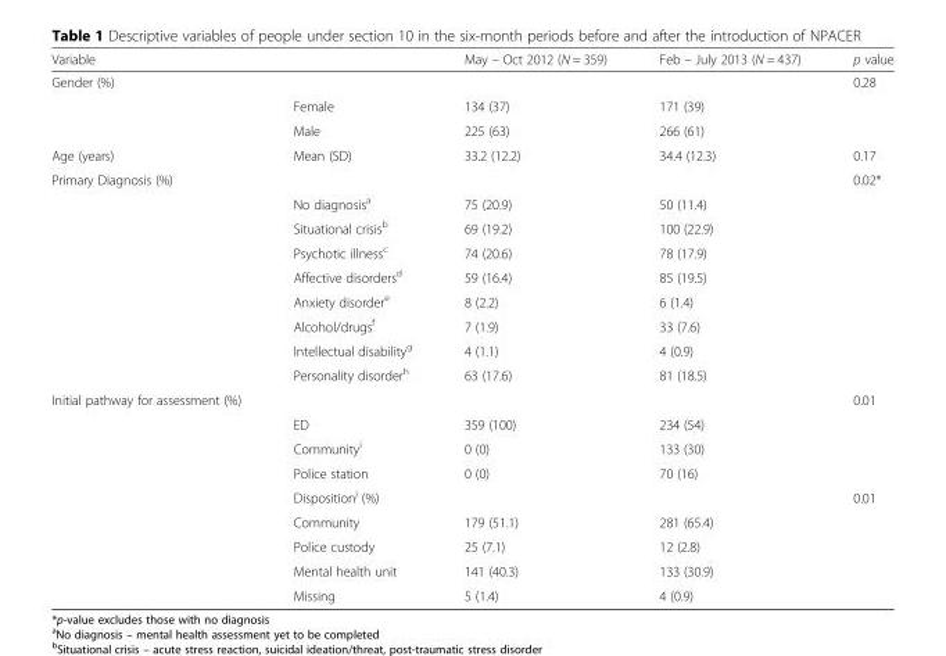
<table><thead><tr><td colspan="2">Variable</td><td rowspan="2">May – Oct 2012 (N = 359)</td><td rowspan="2">Feb – July 2013 (N = 437)</td><td rowspan="2">p value 0.28</td></tr><tr><td>Gender (%)</td><td></td></tr></thead><tbody><tr><td></td><td>Female</td><td>134 (37)</td><td>171 (39)</td><td></td></tr><tr><td></td><td>Male</td><td>225 (63)</td><td>266 (61)</td><td></td></tr><tr><td>Age (years)</td><td>Mean (SD)</td><td>33.2 (12.2)</td><td>34.4 (12.3)</td><td>0.17</td></tr><tr><td rowspan="9">Primary Diagnosis (%)</td><td></td><td></td><td></td><td>0.02*</td></tr><tr><td>No diagnosis<sup>a</sup></td><td>75 (20.9)</td><td>50 (11.4)</td><td></td></tr><tr><td>Situational crisis<sup>b</sup></td><td>69 (19.2)</td><td>100 (22.9)</td><td></td></tr><tr><td>Psychotic illness<sup>c</sup></td><td>74 (20.6)</td><td>78 (17.9)</td><td></td></tr><tr><td>Affective disorders<sup>d</sup></td><td>59 (16.4)</td><td>85 (19.5)</td><td></td></tr><tr><td>Anxiety disorder<sup>e</sup></td><td>8 (2.2)</td><td>6 (1.4)</td><td></td></tr><tr><td>Alcohol/drugs<sup>f</sup></td><td>7 (1.9)</td><td>33 (7.6)</td><td></td></tr><tr><td>Intellectual disability<sup>g</sup></td><td>4 (1.1)</td><td>4 (0.9)</td><td></td></tr><tr><td>Personality disorder<sup>h</sup></td><td>63 (17.6)</td><td>81 (18.5)</td><td></td></tr><tr><td rowspan="9">Initial pathway for assessment (%)</td><td></td><td></td><td></td><td>0.01</td></tr><tr><td>ED</td><td>359 (100)</td><td>234 (54)</td><td></td></tr><tr><td>Community<sup>i</sup></td><td>0 (0)</td><td>133 (30)</td><td></td></tr><tr><td>Police station</td><td>0 (0)</td><td>70 (16)</td><td></td></tr><tr><td>Disposition<sup>j</sup> (%)</td><td></td><td></td><td>0.01</td></tr><tr><td>Community</td><td>179 (51.1)</td><td>281 (65.4)</td><td></td></tr><tr><td>Police custody</td><td>25 (7.1)</td><td>12 (2.8)</td><td></td></tr><tr><td>Mental health unit</td><td>141 (40.3)</td><td>133 (30.9)</td><td></td></tr><tr><td>Missing</td><td>5 (1.4)</td><td>4 (0.9)</td><td></td></tr></tbody></table>